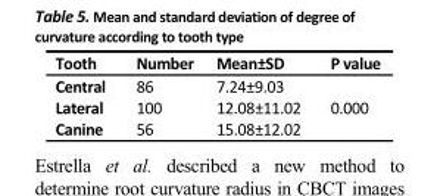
<table><thead><tr><td>Tooth</td><td>Number</td><td>Mean±SD</td><td>P value</td></tr></thead><tbody><tr><td>Central</td><td>86</td><td>7.24±9.03</td><td rowspan="3">0.000</td></tr><tr><td>Lateral</td><td>100</td><td>12.08±11.02</td></tr><tr><td>Canine</td><td>56</td><td>15.08±12.02</td></tr></tbody></table>